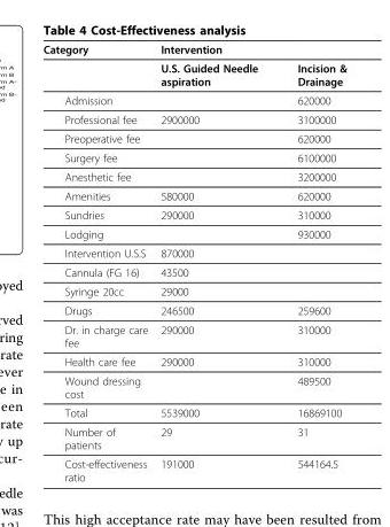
<table><thead><tr><td>Category</td><td>Intervention</td><td></td></tr></thead><tbody><tr><td></td><td>U.S. Guided Needle aspiration</td><td>Incision &amp; Drainage</td></tr><tr><td>Admission</td><td></td><td>620000</td></tr><tr><td>Professional fee</td><td>2900000</td><td>3100000</td></tr><tr><td>Preoperative fee</td><td></td><td>620000</td></tr><tr><td>Surgery fee</td><td></td><td>6100000</td></tr><tr><td>Anesthetic fee</td><td></td><td>3200000</td></tr><tr><td>Amenities</td><td>580000</td><td>620000</td></tr><tr><td>Sundries</td><td>290000</td><td>310000</td></tr><tr><td>Lodging</td><td></td><td>930000</td></tr><tr><td>Intervention U.S.S</td><td>870000</td><td></td></tr><tr><td>Cannula (FG 16)</td><td>43500</td><td></td></tr><tr><td>Syringe 20cc</td><td>29000</td><td></td></tr><tr><td>Drugs</td><td>246500</td><td>259600</td></tr><tr><td>Dr. in charge care fee</td><td>290000</td><td>310000</td></tr><tr><td>Health care fee</td><td>290000</td><td>310000</td></tr><tr><td>Wound dressing cost</td><td></td><td>489500</td></tr><tr><td>Total</td><td>5539000</td><td>16869100</td></tr><tr><td>Number of patients</td><td>29</td><td>31</td></tr><tr><td>Cost-effectiveness ratio</td><td>191000</td><td>544164.5</td></tr></tbody></table>